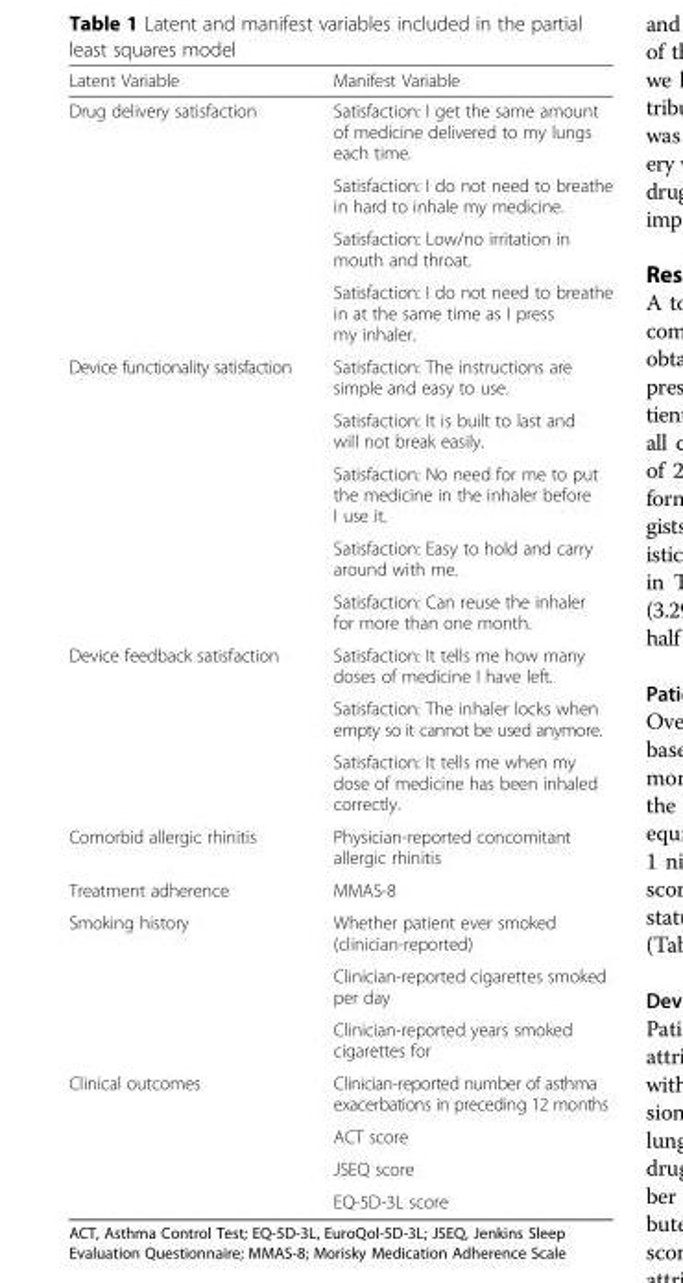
<table><thead><tr><td>Latent Variable</td><td>Manifest Variable</td></tr></thead><tbody><tr><td rowspan="4">Drug delivery satisfaction</td><td>Satisfaction: I get the same amount of medicine delivered to my lungs each time.</td></tr><tr><td>Satisfaction: I do not need to breathe in hard to inhale my medicine.</td></tr><tr><td>Satisfaction: Low/no irritation in mouth and throat.</td></tr><tr><td>Satisfaction: I do not need to breathe in at the same time as I press my inhaler.</td></tr><tr><td rowspan="5">Device functionality satisfaction</td><td>Satisfaction: The instructions are simple and easy to use.</td></tr><tr><td>Satisfaction: It is built to last and will not break easily.</td></tr><tr><td>Satisfaction: No need for me to put the medicine in the inhaler before I use it.</td></tr><tr><td>Satisfaction: Easy to hold and carry around with me.</td></tr><tr><td>Satisfaction: Can reuse the inhaler for more than one month.</td></tr><tr><td rowspan="3">Device feedback satisfaction</td><td>Satisfaction: It tells me how many doses of medicine I have left.</td></tr><tr><td>Satisfaction: The inhaler locks when empty so it cannot be used anymore.</td></tr><tr><td>Satisfaction: It tells me when my dose of medicine has been inhaled correctly.</td></tr><tr><td>Comorbid allergic rhinitis</td><td>Physician-reported concomitant allergic rhinitis</td></tr><tr><td>Treatment adherence</td><td>MMAS-8</td></tr><tr><td rowspan="3">Smoking history</td><td>Whether patient ever smoked (clinician-reported)</td></tr><tr><td>Clinician-reported cigarettes smoked per day</td></tr><tr><td>Clinician-reported years smoked cigarettes for</td></tr><tr><td rowspan="4">Clinical outcomes</td><td>Clinician-reported number of asthma exacerbations in preceding 12 months</td></tr><tr><td>ACT score</td></tr><tr><td>JSEQ score</td></tr><tr><td>EQ-5D-3L score</td></tr></tbody></table>